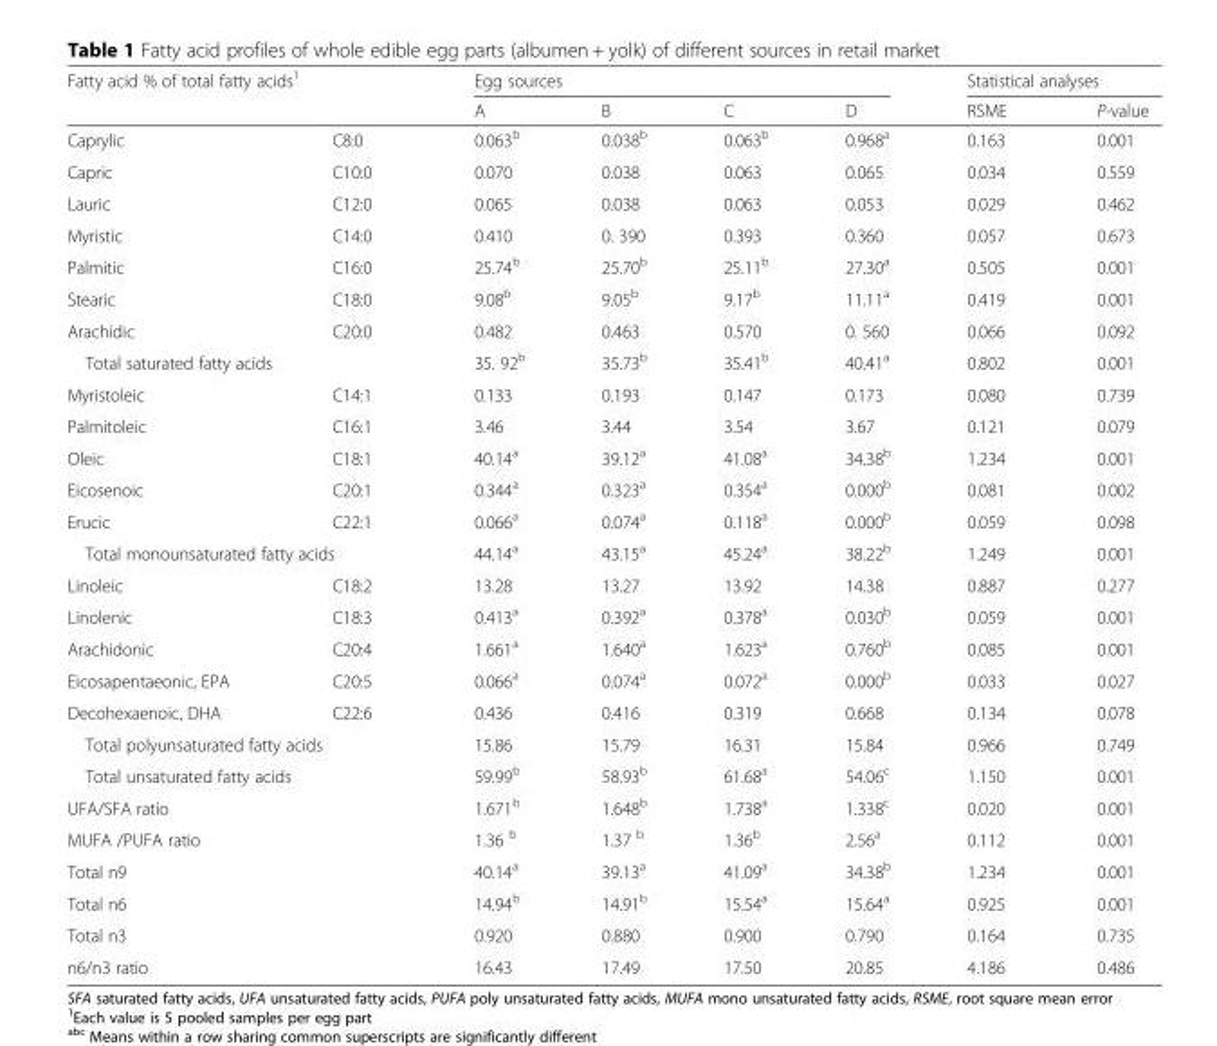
<table><thead><tr><td rowspan="2" colspan="2">Fatty acid % of total fatty acids<sup>1</sup></td><td colspan="4">Egg sources</td><td colspan="2">Statistical analyses</td></tr><tr><td rowspan="2">A 0.063<sup>b</sup></td><td rowspan="2">B 0.038<sup>b</sup></td><td rowspan="2">C 0.063<sup>b</sup></td><td rowspan="2">D 0.968<sup>a</sup></td><td rowspan="2">RSME 0.163</td><td rowspan="2">P-value 0.001</td></tr><tr><td>Caprylic</td><td>C8:0</td></tr></thead><tbody><tr><td>Capric</td><td>C10:0</td><td>0.070</td><td>0.038</td><td>0.063</td><td>0.065</td><td>0.034</td><td>0.559</td></tr><tr><td>Lauric</td><td>C12:0</td><td>0.065</td><td>0.038</td><td>0.063</td><td>0.053</td><td>0.029</td><td>0.462</td></tr><tr><td>Myristic</td><td>C14:0</td><td>0.410</td><td>0. 390</td><td>0.393</td><td>0.360</td><td>0.057</td><td>0.673</td></tr><tr><td>Palmitic</td><td>C16:0</td><td>25.74<sup>b</sup></td><td>25.70<sup>b</sup></td><td>25.11<sup>b</sup></td><td>27.30<sup>a</sup></td><td>0.505</td><td>0.001</td></tr><tr><td>Stearic</td><td>C18:0</td><td>9.08<sup>b</sup></td><td>9.05<sup>b</sup></td><td>9.17<sup>b</sup></td><td>11.11<sup>a</sup></td><td>0.419</td><td>0.001</td></tr><tr><td>Arachidic</td><td>C20:0</td><td>0.482</td><td>0.463</td><td>0.570</td><td>0. 560</td><td>0.066</td><td>0.092</td></tr><tr><td colspan="2">Total saturated fatty acids</td><td>35. 92<sup>b</sup></td><td>35.73<sup>b</sup></td><td>35.41<sup>b</sup></td><td>40.41<sup>a</sup></td><td>0.802</td><td>0.001</td></tr><tr><td>Myristoleic</td><td>C14:1</td><td>0.133</td><td>0.193</td><td>0.147</td><td>0.173</td><td>0.080</td><td>0.739</td></tr><tr><td>Palmitoleic</td><td>C16:1</td><td>3.46</td><td>3.44</td><td>3.54</td><td>3.67</td><td>0.121</td><td>0.079</td></tr><tr><td>Oleic</td><td>C18:1</td><td>40.14<sup>a</sup></td><td>39.12<sup>a</sup></td><td>41.08<sup>a</sup></td><td>34.38<sup>b</sup></td><td>1.234</td><td>0.001</td></tr><tr><td>Eicosenoic</td><td>C20:1</td><td>0.344<sup>a</sup></td><td>0.323<sup>a</sup></td><td>0.354<sup>a</sup></td><td>0.000<sup>b</sup></td><td>0.081</td><td>0.002</td></tr><tr><td>Erucic</td><td>C22:1</td><td>0.066<sup>a</sup></td><td>0.074<sup>a</sup></td><td>0.118<sup>a</sup></td><td>0.000<sup>b</sup></td><td>0.059</td><td>0.098</td></tr><tr><td colspan="2">Total monounsaturated fatty acids</td><td>44.14<sup>a</sup></td><td>43.15<sup>a</sup></td><td>45.24<sup>a</sup></td><td>38.22<sup>b</sup></td><td>1.249</td><td>0.001</td></tr><tr><td>Linoleic</td><td>C18:2</td><td>13.28</td><td>13.27</td><td>13.92</td><td>14.38</td><td>0.887</td><td>0.277</td></tr><tr><td>Linolenic</td><td>C18:3</td><td>0.413<sup>a</sup></td><td>0.392<sup>a</sup></td><td>0.378<sup>a</sup></td><td>0.030<sup>b</sup></td><td>0.059</td><td>0.001</td></tr><tr><td>Arachidonic</td><td>C20:4</td><td>1.661<sup>a</sup></td><td>1.640<sup>a</sup></td><td>1.623<sup>a</sup></td><td>0.760<sup>b</sup></td><td>0.085</td><td>0.001</td></tr><tr><td>Eicosapentaeonic, EPA</td><td>C20:5</td><td>0.066<sup>a</sup></td><td>0.074<sup>a</sup></td><td>0.072<sup>a</sup></td><td>0.000<sup>b</sup></td><td>0.033</td><td>0.027</td></tr><tr><td>Decohexaenoic, DHA</td><td>C22:6</td><td>0.436</td><td>0.416</td><td>0.319</td><td>0.668</td><td>0.134</td><td>0.078</td></tr><tr><td colspan="2">Total polyunsaturated fatty acids</td><td>15.86</td><td>15.79</td><td>16.31</td><td>15.84</td><td>0.966</td><td>0.749</td></tr><tr><td colspan="2">Total unsaturated fatty acids</td><td>59.99<sup>b</sup></td><td>58.93<sup>b</sup></td><td>61.68<sup>a</sup></td><td>54.06<sup>c</sup></td><td>1.150</td><td>0.001</td></tr><tr><td colspan="2">UFA/SFA ratio</td><td>1.671<sup>b</sup></td><td>1.648<sup>b</sup></td><td>1.738<sup>a</sup></td><td>1.338<sup>c</sup></td><td>0.020</td><td>0.001</td></tr><tr><td colspan="2">MUFA /PUFA ratio</td><td>1.36 <sup>b</sup></td><td>1.37 <sup>b</sup></td><td>1.36<sup>b</sup></td><td>2.56<sup>a</sup></td><td>0.112</td><td>0.001</td></tr><tr><td colspan="2">Total n9</td><td>40.14<sup>a</sup></td><td>39.13<sup>a</sup></td><td>41.09<sup>a</sup></td><td>34.38<sup>b</sup></td><td>1.234</td><td>0.001</td></tr><tr><td colspan="2">Total n6</td><td>14.94<sup>b</sup></td><td>14.91<sup>b</sup></td><td>15.54<sup>a</sup></td><td>15.64<sup>a</sup></td><td>0.925</td><td>0.001</td></tr><tr><td colspan="2">Total n3</td><td>0.920</td><td>0.880</td><td>0.900</td><td>0.790</td><td>0.164</td><td>0.735</td></tr><tr><td colspan="2">n6/n3 ratio</td><td>16.43</td><td>17.49</td><td>17.50</td><td>20.85</td><td>4.186</td><td>0.486</td></tr></tbody></table>